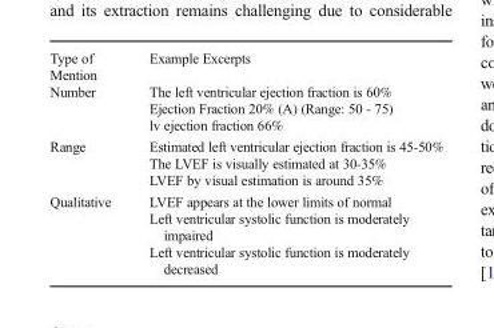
<table><thead><tr><td>Type of Mention</td><td>Example Excerpts</td></tr></thead><tbody><tr><td>Number</td><td>The left ventricular ejection fraction is 60% Ejection Fraction 20% (A) (Range: 50 - 75) lv ejection fraction 66%</td></tr><tr><td>Range</td><td>Estimated left ventricular ejection fraction is 45-50% The LVEF is visually estimated at 30-35% LVEF by visual estimation is around 35%</td></tr><tr><td>Qualitative</td><td>LVEF appears at the lower limits of normal Left ventricular systolic function is moderately impaired Left ventricular systolic function is moderately decreased</td></tr></tbody></table>